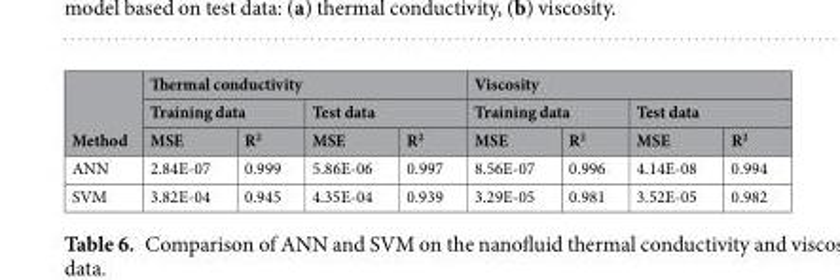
<table><thead><tr><td rowspan="3">Method</td><td colspan="4">Thermal conductivity</td><td colspan="4">Viscosity</td></tr><tr><td colspan="2">Training data</td><td colspan="2">Test data</td><td colspan="2">Training data</td><td colspan="2">Test data</td></tr><tr><td>MSE</td><td>R<sup>2</sup></td><td>MSE</td><td>R<sup>2</sup></td><td>MSE</td><td>R<sup>2</sup></td><td>MSE</td><td>R<sup>2</sup></td></tr></thead><tbody><tr><td>ANN</td><td>2.84E-07</td><td>0.999</td><td>5.86E-06</td><td>0.997</td><td>8.56E-07</td><td>0.996</td><td>4.14E-08</td><td>0.994</td></tr><tr><td>SVM</td><td>3.82E-04</td><td>0.945</td><td>4.35E-04</td><td>0.939</td><td>3.29E-05</td><td>0.981</td><td>3.52E-05</td><td>0.982</td></tr></tbody></table>